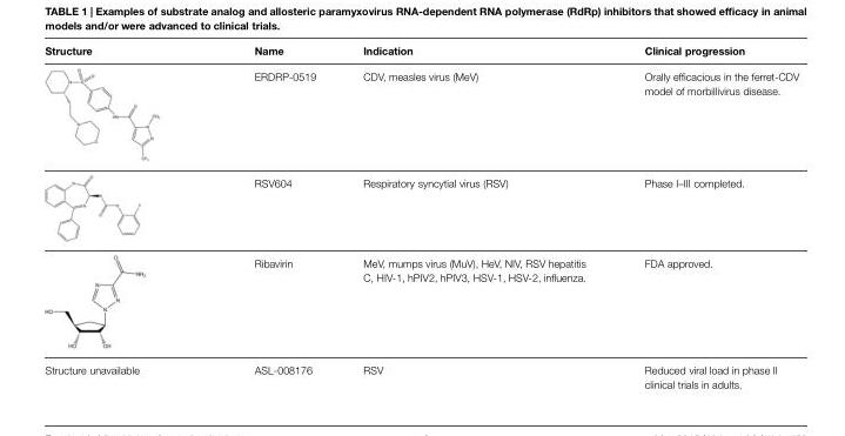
<table><thead><tr><td>Structure</td><td>Name</td><td>Indication</td><td>Clinical progression</td></tr></thead><tbody><tr><td></td><td>ERDRP-0519</td><td>CDV, measles virus (MeV)</td><td>Orally efficacious in the ferret-CDV model of morbillivirus disease.</td></tr><tr><td></td><td>RSV604</td><td>Respiratory syncytial virus (RSV)</td><td>Phase I–III completed.</td></tr><tr><td></td><td>Ribavirin</td><td>MeV, mumps virus (MuV), HeV, NIV, RSV hepatitis C, HIV-1, hPIV2, hPIV3, HSV-1, HSV-2, influenza.</td><td>FDA approved.</td></tr><tr><td>Structure unavailable</td><td>ASL-008176</td><td>RSV</td><td>Reduced viral load in phase II clinical trials in adults.</td></tr></tbody></table>